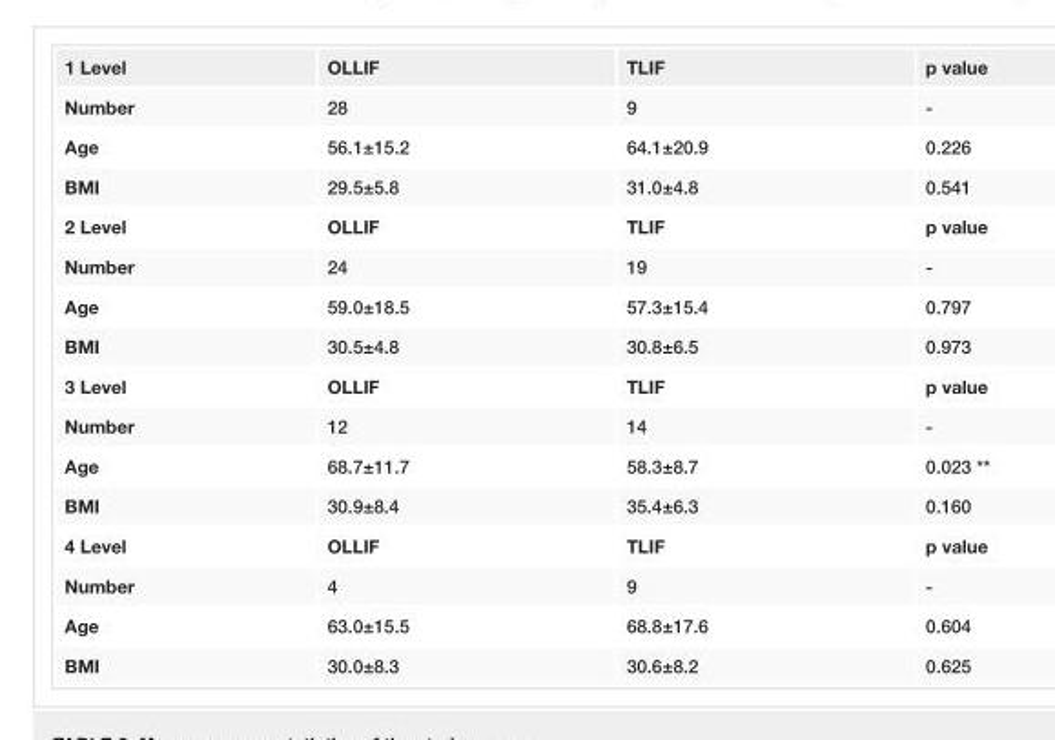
<table><tbody><tr><td>1 Level</td><td>OLLIF</td><td>TLIF</td><td>p value</td></tr><tr><td>Number</td><td>28</td><td>9</td><td>-</td></tr><tr><td>Age</td><td>56.1±15.2</td><td>64.1±20.9</td><td>0.226</td></tr><tr><td>BMI</td><td>29.5±5.8</td><td>31.0±4.8</td><td>0.541</td></tr><tr><td>2 Level</td><td>OLLIF</td><td>TLIF</td><td>p value</td></tr><tr><td>Number</td><td>24</td><td>19</td><td>-</td></tr><tr><td>Age</td><td>59.0±18.5</td><td>57.3±15.4</td><td>0.797</td></tr><tr><td>BMI</td><td>30.5±4.8</td><td>30.8±6.5</td><td>0.973</td></tr><tr><td>3 Level</td><td>OLLIF</td><td>TLIF</td><td>p value</td></tr><tr><td>Number</td><td>12</td><td>14</td><td>-</td></tr><tr><td>Age</td><td>68.7±11.7</td><td>58.3±8.7</td><td>0.023 **</td></tr><tr><td>BMI</td><td>30.9±8.4</td><td>35.4±6.3</td><td>0.160</td></tr><tr><td>4 Level</td><td>OLLIF</td><td>TLIF</td><td>p value</td></tr><tr><td>Number</td><td>4</td><td>9</td><td>-</td></tr><tr><td>Age</td><td>63.0±15.5</td><td>68.8±17.6</td><td>0.604</td></tr><tr><td>BMI</td><td>30.0±8.3</td><td>30.6±8.2</td><td>0.625</td></tr></tbody></table>